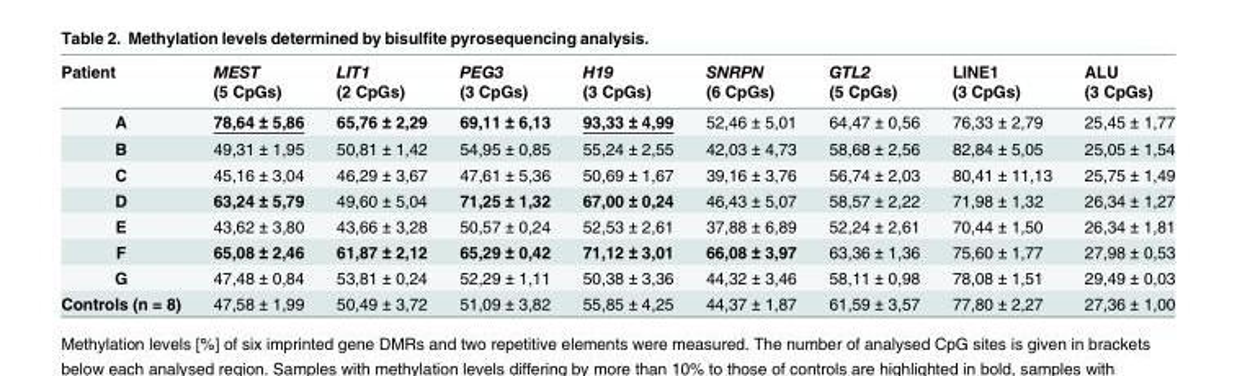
<table><thead><tr><td>Patient</td><td>MEST (5 CpGs)</td><td>LIT1 (2 CpGs)</td><td>PEG3 (3 CpGs)</td><td>H19 (3 CpGs)</td><td>SNRPN (6 CpGs)</td><td>GTL2 (5 CpGs)</td><td>LINE1 (3 CpGs)</td><td>ALU (3 CpGs)</td></tr></thead><tbody><tr><td>A</td><td>78,64 ± 5,86</td><td>65,76 ± 2,29</td><td>69,11 ± 6,13</td><td>93,33 ± 4,99</td><td>52,46 ± 5,01</td><td>64,47 ± 0,56</td><td>76,33 ± 2,79</td><td>25,45 ± 1,77</td></tr><tr><td>B</td><td>49,31 ± 1,95</td><td>50,81 ± 1,42</td><td>54,95 ± 0,85</td><td>55,24 ± 2,55</td><td>42,03 ± 4,73</td><td>58,68 ± 2,56</td><td>82,84 ± 5,05</td><td>25,05 ± 1,54</td></tr><tr><td>C</td><td>45,16 ± 3,04</td><td>46,29 ± 3,67</td><td>47,61 ± 5,36</td><td>50,69 ± 1,67</td><td>39,16 ± 3,76</td><td>56,74 ± 2,03</td><td>80,41 ± 11,13</td><td>25,75 ± 1,49</td></tr><tr><td>D</td><td>63,24 ± 5,79</td><td>49,60 ± 5,04</td><td>71,25 ± 1,32</td><td>67,00 ± 0,24</td><td>46,43 ± 5,07</td><td>58,57 ± 2,22</td><td>71,98 ± 1,32</td><td>26,34 ± 1,27</td></tr><tr><td>E</td><td>43,62 ± 3,80</td><td>43,66 ± 3,28</td><td>50,57 ± 0,24</td><td>52,53 ± 2,61</td><td>37,88 ± 6,89</td><td>52,24 ± 2,61</td><td>70,44 ± 1,50</td><td>26,34 ± 1,81</td></tr><tr><td>F</td><td>65,08 ± 2,46</td><td>61,87 ± 2,12</td><td>65,29 ± 0,42</td><td>71,12 ± 3,01</td><td>66,08 ± 3,97</td><td>63,36 ± 1,36</td><td>75,60 ± 1,77</td><td>27,98 ± 0,53</td></tr><tr><td>G</td><td>47,48 ± 0,84</td><td>53,81 ± 0,24</td><td>52,29 ± 1,11</td><td>50,38 ± 3,36</td><td>44,32 ± 3,46</td><td>58,11 ± 0,98</td><td>78,08 ± 1,51</td><td>29,49 ± 0,03</td></tr><tr><td>Controls (n = 8)</td><td>47,58 ± 1,99</td><td>50,49 ± 3,72</td><td>51,09 ± 3,82</td><td>55,85 ± 4,25</td><td>44,37 ± 1,87</td><td>61,59 ± 3,57</td><td>77,80 ± 2,27</td><td>27,36 ± 1,00</td></tr></tbody></table>